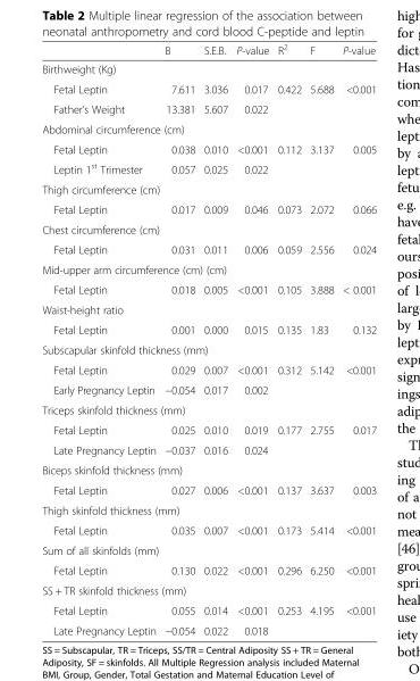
<table><thead><tr><td></td><td>B</td><td>S.E.B.</td><td>P-value</td><td>R<sup>2</sup></td><td>F</td><td>P-value</td></tr></thead><tbody><tr><td colspan="7">Birthweight (Kg)</td></tr><tr><td>Fetal Leptin</td><td>7.611</td><td>3.036</td><td>0.017</td><td rowspan="2">0.422</td><td rowspan="2">5.688</td><td rowspan="2">&lt;0.001</td></tr><tr><td>Father’s Weight</td><td>13.381</td><td>5.607</td><td>0.022</td></tr><tr><td colspan="7">Abdominal circumference (cm)</td></tr><tr><td>Fetal Leptin</td><td>0.038</td><td>0.010</td><td>&lt;0.001</td><td rowspan="2">0.112</td><td rowspan="2">3.137</td><td rowspan="2">0.005</td></tr><tr><td>Leptin 1<sup>st</sup> Trimester</td><td>0.057</td><td>0.025</td><td>0.022</td></tr><tr><td colspan="7">Thigh circumference (cm)</td></tr><tr><td>Fetal Leptin</td><td>0.017</td><td>0.009</td><td>0.046</td><td>0.073</td><td>2.072</td><td>0.066</td></tr><tr><td colspan="7">Chest circumference (cm)</td></tr><tr><td>Fetal Leptin</td><td>0.031</td><td>0.011</td><td>0.006</td><td>0.059</td><td>2.556</td><td>0.024</td></tr><tr><td colspan="7">Mid-upper arm circumference (cm) (cm)</td></tr><tr><td>Fetal Leptin</td><td>0.018</td><td>0.005</td><td>&lt;0.001</td><td>0.105</td><td>3.888</td><td>&lt; 0.001</td></tr><tr><td colspan="7">Waist-height ratio</td></tr><tr><td>Fetal Leptin</td><td>0.001</td><td>0.000</td><td>0.015</td><td>0.135</td><td>1.83</td><td>0.132</td></tr><tr><td colspan="7">Subscapular skinfold thickness (mm)</td></tr><tr><td>Fetal Leptin</td><td>0.029</td><td>0.007</td><td>&lt;0.001</td><td rowspan="2">0.312</td><td rowspan="2">5.142</td><td rowspan="2">&lt;0.001</td></tr><tr><td>Early Pregnancy Leptin</td><td>−0.054</td><td>0.017</td><td>0.002</td></tr><tr><td colspan="7">Triceps skinfold thickness (mm)</td></tr><tr><td>Fetal Leptin</td><td>0.025</td><td>0.010</td><td>0.019</td><td rowspan="2">0.177</td><td rowspan="2">2.755</td><td rowspan="2">0.017</td></tr><tr><td>Late Pregnancy Leptin</td><td>−0.037</td><td>0.016</td><td>0.024</td></tr><tr><td colspan="7">Biceps skinfold thickness (mm)</td></tr><tr><td>Fetal Leptin</td><td>0.027</td><td>0.006</td><td>&lt;0.001</td><td>0.137</td><td>3.637</td><td>0.003</td></tr><tr><td colspan="7">Thigh skinfold thickness (mm)</td></tr><tr><td>Fetal Leptin</td><td>0.035</td><td>0.007</td><td>&lt;0.001</td><td>0.173</td><td>5.414</td><td>&lt;0.001</td></tr><tr><td colspan="7">Sum of all skinfolds (mm)</td></tr><tr><td>Fetal Leptin</td><td>0.130</td><td>0.022</td><td>&lt;0.001</td><td>0.296</td><td>6.250</td><td>&lt;0.001</td></tr><tr><td colspan="7">SS + TR skinfold thickness (mm)</td></tr><tr><td>Fetal Leptin</td><td>0.055</td><td>0.014</td><td>&lt;0.001</td><td rowspan="2">0.253</td><td rowspan="2">4.195</td><td rowspan="2">&lt;0.001</td></tr><tr><td>Late Pregnancy Leptin</td><td>−0.054</td><td>0.022</td><td>0.018</td></tr></tbody></table>